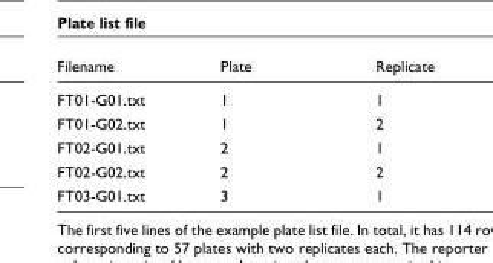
<table><thead><tr><td>Filename</td><td>Plate</td><td>Replicate</td></tr></thead><tbody><tr><td>FT01-G01.txt</td><td>1</td><td>1</td></tr><tr><td>FT01-G02.txt</td><td>1</td><td>2</td></tr><tr><td>FT02-G01.txt</td><td>2</td><td>1</td></tr><tr><td>FT02-G02.txt</td><td>2</td><td>2</td></tr><tr><td>FT03-G01.txt</td><td>3</td><td>1</td></tr></tbody></table>